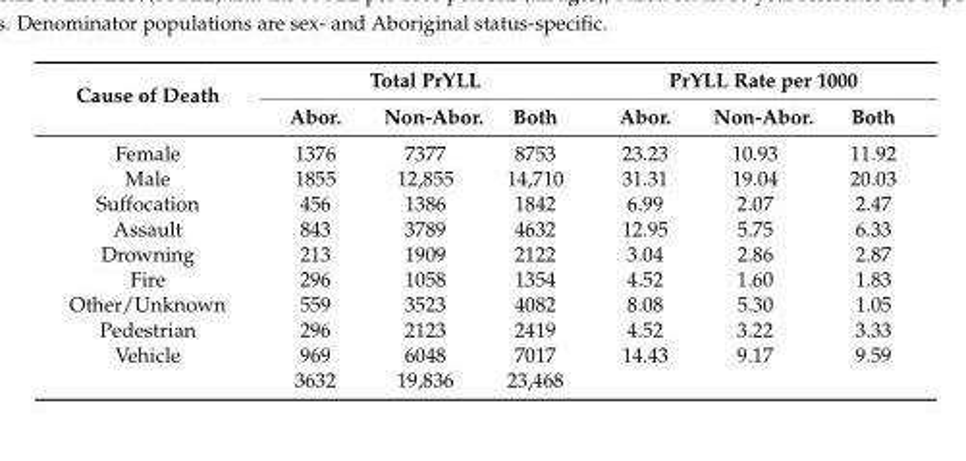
<table><thead><tr><td rowspan="2">Cause of Death</td><td colspan="3">Total PrYLL</td><td colspan="3">PrYLL Rate per 1000</td></tr><tr><td>Abor.</td><td>Non-Abor.</td><td>Both</td><td>Abor.</td><td>Non-Abor.</td><td>Both</td></tr></thead><tbody><tr><td>Female</td><td>1376</td><td>7377</td><td>8753</td><td>23.23</td><td>10.93</td><td>11.92</td></tr><tr><td>Male</td><td>1855</td><td>12,855</td><td>14,710</td><td>31.31</td><td>19.04</td><td>20.03</td></tr><tr><td>Suffocation</td><td>456</td><td>1386</td><td>1842</td><td>6.99</td><td>2.07</td><td>2.47</td></tr><tr><td>Assault</td><td>843</td><td>3789</td><td>4632</td><td>12.95</td><td>5.75</td><td>6.33</td></tr><tr><td>Drowning</td><td>213</td><td>1909</td><td>2122</td><td>3.04</td><td>2.86</td><td>2.87</td></tr><tr><td>Fire</td><td>296</td><td>1058</td><td>1354</td><td>4.52</td><td>1.60</td><td>1.83</td></tr><tr><td>Other/Unknown</td><td>559</td><td>3523</td><td>4082</td><td>8.08</td><td>5.30</td><td>1.05</td></tr><tr><td>Pedestrian</td><td>296</td><td>2123</td><td>2419</td><td>4.52</td><td>3.22</td><td>3.33</td></tr><tr><td rowspan="2">Vehicle</td><td>969</td><td>6048</td><td>7017</td><td>14.43</td><td>9.17</td><td>9.59</td></tr><tr><td>3632</td><td>19,836</td><td>23,468</td><td></td><td></td><td></td></tr></tbody></table>